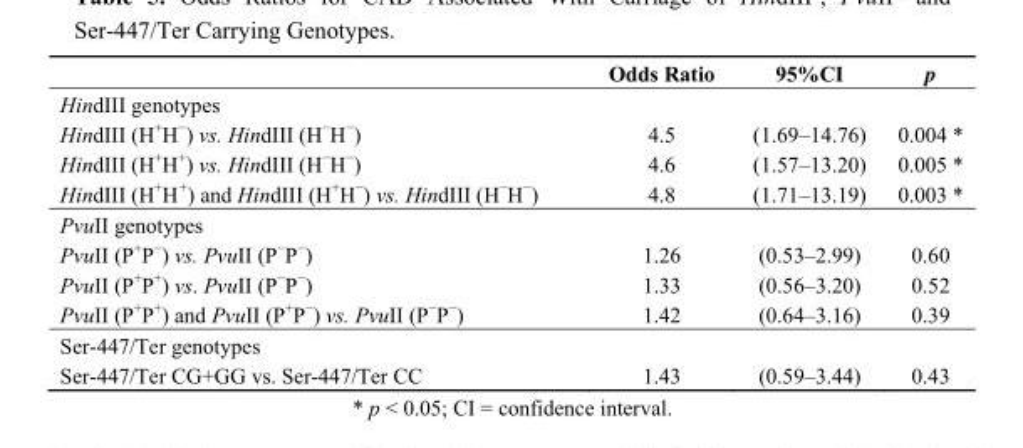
<table><thead><tr><td></td><td>Odds Ratio</td><td>95%CI</td><td>p</td></tr></thead><tbody><tr><td colspan="4">HindIII genotypes</td></tr><tr><td>HindIII (H<sup>+</sup>H<sup>−</sup>) vs. HindIII (H<sup>−</sup>H<sup>−</sup>)</td><td>4.5</td><td>(1.69–14.76)</td><td>0.004 *</td></tr><tr><td>HindIII (H<sup>+</sup>H<sup>+</sup>) vs. HindIII (H<sup>−</sup>H<sup>−</sup>)</td><td>4.6</td><td>(1.57–13.20)</td><td>0.005 *</td></tr><tr><td>HindIII (H<sup>+</sup>H<sup>+</sup>) and HindIII (H<sup>+</sup>H<sup>−</sup>) vs. HindIII (H<sup>−</sup>H<sup>−</sup>)</td><td>4.8</td><td>(1.71–13.19)</td><td>0.003 *</td></tr><tr><td colspan="4">PvuII genotypes</td></tr><tr><td>PvuII (P<sup>+</sup>P<sup>−</sup>) vs. PvuII (P<sup>−</sup>P<sup>−</sup>)</td><td>1.26</td><td>(0.53–2.99)</td><td>0.60</td></tr><tr><td>PvuII (P<sup>+</sup>P<sup>+</sup>) vs. PvuII (P<sup>−</sup>P<sup>−</sup>)</td><td>1.33</td><td>(0.56–3.20)</td><td>0.52</td></tr><tr><td>PvuII (P<sup>+</sup>P<sup>+</sup>) and PvuII (P<sup>+</sup>P<sup>−</sup>) vs. PvuII (P<sup>−</sup>P<sup>−</sup>)</td><td>1.42</td><td>(0.64–3.16)</td><td>0.39</td></tr><tr><td colspan="4">Ser-447/Ter genotypes</td></tr><tr><td>Ser-447/Ter CG+GG vs. Ser-447/Ter CC</td><td>1.43</td><td>(0.59–3.44)</td><td>0.43</td></tr></tbody></table>